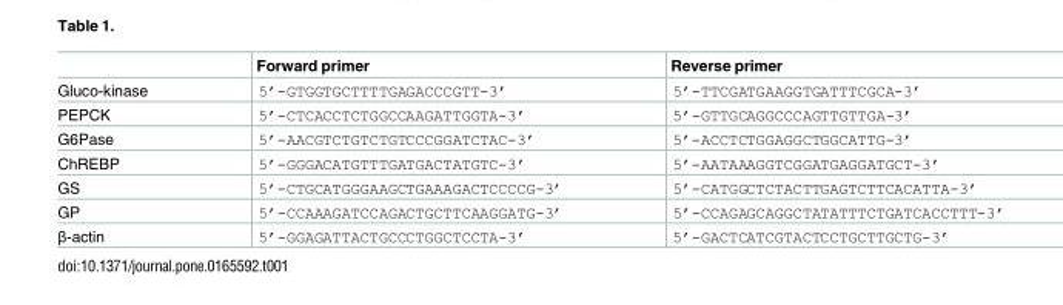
<table><thead><tr><td></td><td>Forward primer</td><td>Reverse primer</td></tr></thead><tbody><tr><td>Gluco-kinase</td><td>5’-GTGGTGCTTTTGAGACCCGTT-3’</td><td>5’-TTCGATGAAGGTGATTTCGCA-3’</td></tr><tr><td>PEPCK</td><td>5’-CTCACCTCTGGCCAAGATTGGTA-3’</td><td>5’-GTTGCAGGCCCAGTTGTTGA-3’</td></tr><tr><td>G6Pase</td><td>5’-AACGTCTGTCTGTCCCGGATCTAC-3’</td><td>5’-ACCTCTGGAGGCTGGCATTG-3’</td></tr><tr><td>ChREBP</td><td>5’-GGGACATGTTTGATGACTATGTC-3’</td><td>5’-AATAAAGGTCGGATGAGGATGCT-3’</td></tr><tr><td>GS</td><td>5’-CTGCATGGGAAGCTGAAAGACTCCCCG-3’</td><td>5’-CATGGCTCTACTTGAGTCTTCACATTA-3’</td></tr><tr><td>GP</td><td>5’-CCAAAGATCCAGACTGCTTCAAGGATG-3’</td><td>5’-CCAGAGCAGGCTATATTTCTGATCACCTTT-3’</td></tr><tr><td>β-actin</td><td>5’-GGAGATTACTGCCCTGGCTCCTA-3’</td><td>5’-GACTCATCGTACTCCTGCTTGCTG-3’</td></tr></tbody></table>